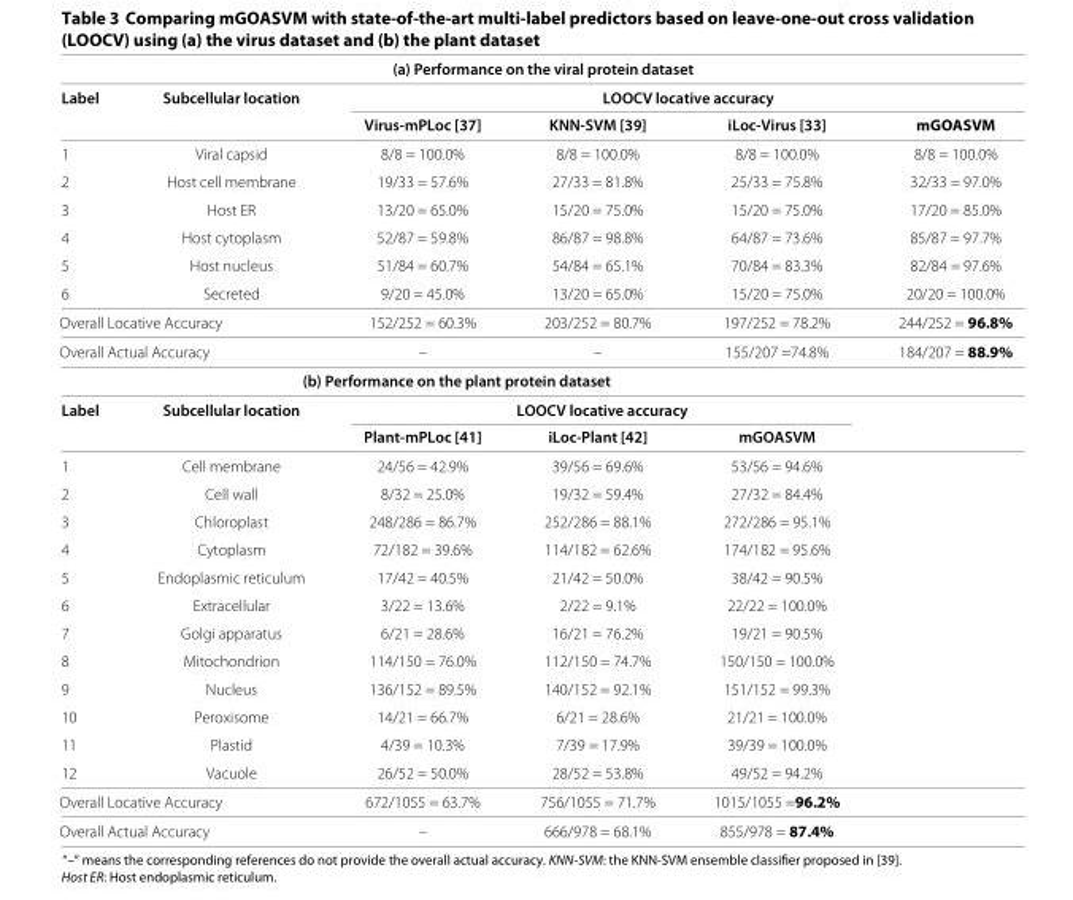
<table><thead><tr><td colspan="6">(a) Performance on the viral protein dataset</td></tr><tr><td rowspan="2">Label</td><td rowspan="2">Subcellular location</td><td colspan="4">LOOCV locative accuracy</td></tr><tr><td>Virus-mPLoc [37]</td><td>KNN-SVM [39]</td><td>iLoc-Virus [33]</td><td>mGOASVM</td></tr></thead><tbody><tr><td>1</td><td>Viral capsid</td><td>8/8 = 100.0%</td><td>8/8 = 100.0%</td><td>8/8 = 100.0%</td><td>8/8 = 100.0%</td></tr><tr><td>2</td><td>Host cell membrane</td><td>19/33 = 57.6%</td><td>27/33 = 81.8%</td><td>25/33 = 75.8%</td><td>32/33 = 97.0%</td></tr><tr><td>3</td><td>Host ER</td><td>13/20 = 65.0%</td><td>15/20 = 75.0%</td><td>15/20 = 75.0%</td><td>17/20 = 85.0%</td></tr><tr><td>4</td><td>Host cytoplasm</td><td>52/87 = 59.8%</td><td>86/87 = 98.8%</td><td>64/87 = 73.6%</td><td>85/87 = 97.7%</td></tr><tr><td>5</td><td>Host nucleus</td><td>51/84 = 60.7%</td><td>54/84 = 65.1%</td><td>70/84 = 83.3%</td><td>82/84 = 97.6%</td></tr><tr><td>6</td><td>Secreted</td><td>9/20 = 45.0%</td><td>13/20 = 65.0%</td><td>15/20 = 75.0%</td><td>20/20 = 100.0%</td></tr><tr><td colspan="2">Overall Locative Accuracy</td><td>152/252 = 60.3%</td><td>203/252 = 80.7%</td><td>197/252 = 78.2%</td><td>244/252 = 96.8%</td></tr><tr><td colspan="2">Overall Actual Accuracy</td><td>–</td><td>–</td><td>155/207 =74.8%</td><td>184/207 = 88.9%</td></tr><tr><td colspan="6">(b) Performance on the plant protein dataset</td></tr><tr><td rowspan="2">Label</td><td>Subcellular location</td><td colspan="3">LOOCV locative accuracy</td><td></td></tr><tr><td></td><td>Plant-mPLoc [41]</td><td>iLoc-Plant [42]</td><td>mGOASVM</td><td></td></tr><tr><td>1</td><td>Cell membrane</td><td>24/56 = 42.9%</td><td>39/56 = 69.6%</td><td>53/56 = 94.6%</td><td></td></tr><tr><td>2</td><td>Cell wall</td><td>8/32 = 25.0%</td><td>19/32 = 59.4%</td><td>27/32 = 84.4%</td><td></td></tr><tr><td>3</td><td>Chloroplast</td><td>248/286 = 86.7%</td><td>252/286 = 88.1%</td><td>272/286 = 95.1%</td><td></td></tr><tr><td>4</td><td>Cytoplasm</td><td>72/182 = 39.6%</td><td>114/182 = 62.6%</td><td>174/182 = 95.6%</td><td></td></tr><tr><td>5</td><td>Endoplasmic reticulum</td><td>17/42 = 40.5%</td><td>21/42 = 50.0%</td><td>38/42 = 90.5%</td><td></td></tr><tr><td>6</td><td>Extracellular</td><td>3/22 = 13.6%</td><td>2/22 = 9.1%</td><td>22/22 = 100.0%</td><td></td></tr><tr><td>7</td><td>Golgi apparatus</td><td>6/21 = 28.6%</td><td>16/21 = 76.2%</td><td>19/21 = 90.5%</td><td></td></tr><tr><td>8</td><td>Mitochondrion</td><td>114/150 = 76.0%</td><td>112/150 = 74.7%</td><td>150/150 = 100.0%</td><td></td></tr><tr><td>9</td><td>Nucleus</td><td>136/152 = 89.5%</td><td>140/152 = 92.1%</td><td>151/152 = 99.3%</td><td></td></tr><tr><td>10</td><td>Peroxisome</td><td>14/21 = 66.7%</td><td>6/21 = 28.6%</td><td>21/21 = 100.0%</td><td></td></tr><tr><td>11</td><td>Plastid</td><td>4/39 = 10.3%</td><td>7/39 = 17.9%</td><td>39/39 = 100.0%</td><td></td></tr><tr><td>12</td><td>Vacuole</td><td>26/52 = 50.0%</td><td>28/52 = 53.8%</td><td>49/52 = 94.2%</td><td></td></tr><tr><td colspan="2">Overall Locative Accuracy</td><td>672/1055 = 63.7%</td><td>756/1055 = 71.7%</td><td>1015/1055 =96.2%</td><td></td></tr><tr><td colspan="2">Overall Actual Accuracy</td><td>–</td><td>666/978 = 68.1%</td><td>855/978 = 87.4%</td><td></td></tr></tbody></table>